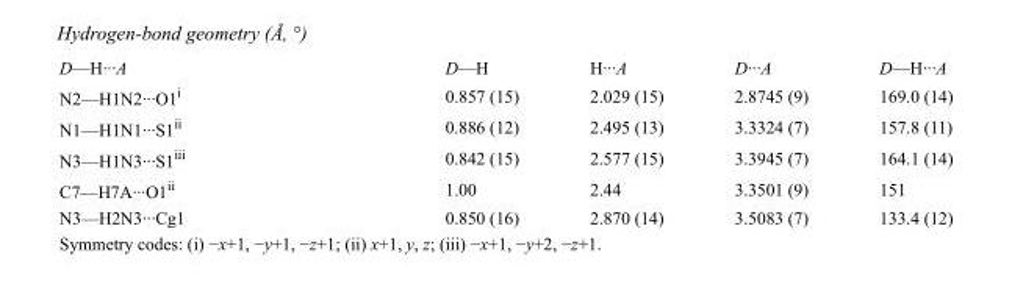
<table><tbody><tr><td>D—H···A</td><td>D—H</td><td>H···A</td><td>D···A</td><td>D—H···A</td></tr><tr><td>N2—H1N2···O1<sup>i</sup></td><td>0.857 (15)</td><td>2.029 (15)</td><td>2.8745 (9)</td><td>169.0 (14)</td></tr><tr><td>N1—H1N1···S1<sup>ii</sup></td><td>0.886 (12)</td><td>2.495 (13)</td><td>3.3324 (7)</td><td>157.8 (11)</td></tr><tr><td>N3—H1N3···S1<sup>iii</sup></td><td>0.842 (15)</td><td>2.577 (15)</td><td>3.3945 (7)</td><td>164.1 (14)</td></tr><tr><td>C7—H7A···O1<sup>ii</sup></td><td>1.00</td><td>2.44</td><td>3.3501 (9)</td><td>151</td></tr><tr><td>N3—H2N3···Cg1</td><td>0.850 (16)</td><td>2.870 (14)</td><td>3.5083 (7)</td><td>133.4 (12)</td></tr></tbody></table>